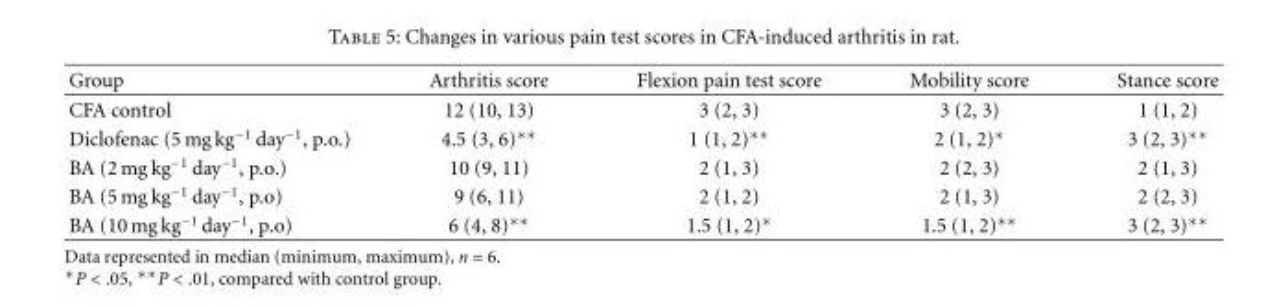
<table><thead><tr><td>Group</td><td>Arthritis score</td><td>Flexion pain test score</td><td>Mobility score</td><td>Stance score</td></tr></thead><tbody><tr><td>CFA control</td><td>12 (10, 13)</td><td>3 (2, 3)</td><td>3 (2, 3)</td><td>1 (1, 2)</td></tr><tr><td>Diclofenac (5 mg kg<sup>−1</sup> day<sup>−1</sup>, p.o.)</td><td>4.5 (3, 6)∗∗</td><td>1 (1, 2)∗∗</td><td>2 (1, 2)∗</td><td>3 (2, 3)∗∗</td></tr><tr><td>BA (2 mg kg<sup>−1</sup> day<sup>−1</sup>, p.o.)</td><td>10 (9, 11)</td><td>2 (1, 3)</td><td>2 (2, 3)</td><td>2 (1, 3)</td></tr><tr><td>BA (5 mg kg<sup>−1</sup> day<sup>−1</sup>, p.o)</td><td>9 (6, 11)</td><td>2 (1, 2)</td><td>2 (1, 3)</td><td>2 (2, 3)</td></tr><tr><td>BA (10 mg kg<sup>−1</sup> day<sup>−1</sup>, p.o)</td><td>6 (4, 8)∗∗</td><td>1.5 (1, 2)∗</td><td>1.5 (1, 2)∗∗</td><td>3 (2, 3)∗∗</td></tr></tbody></table>